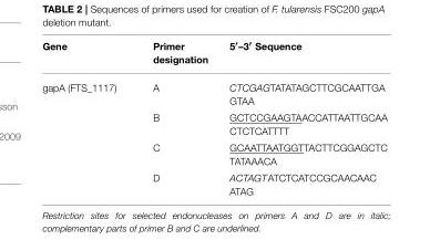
<table><thead><tr><td>Gene</td><td>Primer designation</td><td>5′–3′ Sequence</td></tr></thead><tbody><tr><td rowspan="4">gapA (FTS_1117)</td><td>A</td><td>CTCGAGTATATAGCTTCGCAATTGA GTAA</td></tr><tr><td>B</td><td>GCTCCGAAGTAACCATTAATTGCAA CTCTCATTTT</td></tr><tr><td>C</td><td>GCAATTAATGGTTACTTCGGAGCTC TATAAACA</td></tr><tr><td>D</td><td>ACTAGTATCTCATCCGCAACAAC ATAG</td></tr></tbody></table>